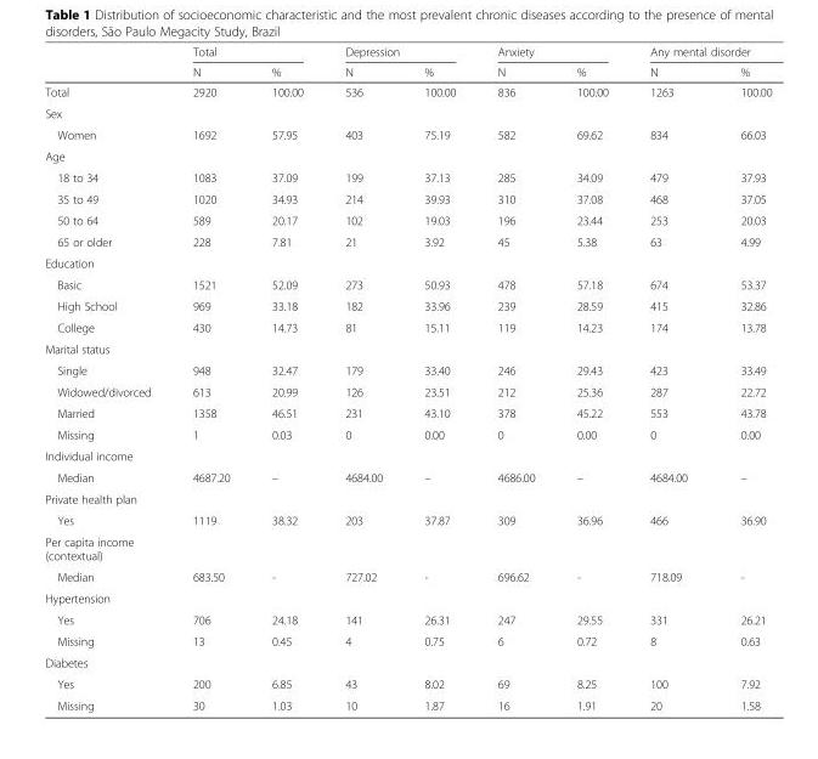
<table><thead><tr><td rowspan="2"></td><td colspan="2">Total</td><td colspan="2">Depression</td><td colspan="2">Anxiety</td><td colspan="2">Any mental disorder</td></tr><tr><td>N</td><td>%</td><td>N</td><td>%</td><td>N</td><td>%</td><td>N</td><td>%</td></tr></thead><tbody><tr><td>Total</td><td>2920</td><td>100.00</td><td>536</td><td>100.00</td><td>836</td><td>100.00</td><td>1263</td><td>100.00</td></tr><tr><td colspan="9">Sex</td></tr><tr><td>Women</td><td>1692</td><td>57.95</td><td>403</td><td>75.19</td><td>582</td><td>69.62</td><td>834</td><td>66.03</td></tr><tr><td colspan="9">Age</td></tr><tr><td>18 to 34</td><td>1083</td><td>37.09</td><td>199</td><td>37.13</td><td>285</td><td>34.09</td><td>479</td><td>37.93</td></tr><tr><td>35 to 49</td><td>1020</td><td>34.93</td><td>214</td><td>39.93</td><td>310</td><td>37.08</td><td>468</td><td>37.05</td></tr><tr><td>50 to 64</td><td>589</td><td>20.17</td><td>102</td><td>19.03</td><td>196</td><td>23.44</td><td>253</td><td>20.03</td></tr><tr><td>65 or older</td><td>228</td><td>7.81</td><td>21</td><td>3.92</td><td>45</td><td>5.38</td><td>63</td><td>4.99</td></tr><tr><td colspan="9">Education</td></tr><tr><td>Basic</td><td>1521</td><td>52.09</td><td>273</td><td>50.93</td><td>478</td><td>57.18</td><td>674</td><td>53.37</td></tr><tr><td>High School</td><td>969</td><td>33.18</td><td>182</td><td>33.96</td><td>239</td><td>28.59</td><td>415</td><td>32.86</td></tr><tr><td>College</td><td>430</td><td>14.73</td><td>81</td><td>15.11</td><td>119</td><td>14.23</td><td>174</td><td>13.78</td></tr><tr><td colspan="9">Marital status</td></tr><tr><td>Single</td><td>948</td><td>32.47</td><td>179</td><td>33.40</td><td>246</td><td>29.43</td><td>423</td><td>33.49</td></tr><tr><td>Widowed/divorced</td><td>613</td><td>20.99</td><td>126</td><td>23.51</td><td>212</td><td>25.36</td><td>287</td><td>22.72</td></tr><tr><td>Married</td><td>1358</td><td>46.51</td><td>231</td><td>43.10</td><td>378</td><td>45.22</td><td>553</td><td>43.78</td></tr><tr><td>Missing</td><td>1</td><td>0.03</td><td>0</td><td>0.00</td><td>0</td><td>0.00</td><td>0</td><td>0.00</td></tr><tr><td colspan="9">Individual income</td></tr><tr><td>Median</td><td>4687.20</td><td>–</td><td>4684.00</td><td>–</td><td>4686.00</td><td>–</td><td>4684.00</td><td>–</td></tr><tr><td colspan="9">Private health plan</td></tr><tr><td>Yes</td><td>1119</td><td>38.32</td><td>203</td><td>37.87</td><td>309</td><td>36.96</td><td>466</td><td>36.90</td></tr><tr><td colspan="9">Per capita income (contextual)</td></tr><tr><td>Median</td><td>683.50</td><td>-</td><td>727.02</td><td>-</td><td>696.62</td><td>-</td><td>718.09</td><td>-</td></tr><tr><td colspan="9">Hypertension</td></tr><tr><td>Yes</td><td>706</td><td>24.18</td><td>141</td><td>26.31</td><td>247</td><td>29.55</td><td>331</td><td>26.21</td></tr><tr><td>Missing</td><td>13</td><td>0.45</td><td>4</td><td>0.75</td><td>6</td><td>0.72</td><td>8</td><td>0.63</td></tr><tr><td colspan="9">Diabetes</td></tr><tr><td>Yes</td><td>200</td><td>6.85</td><td>43</td><td>8.02</td><td>69</td><td>8.25</td><td>100</td><td>7.92</td></tr><tr><td>Missing</td><td>30</td><td>1.03</td><td>10</td><td>1.87</td><td>16</td><td>1.91</td><td>20</td><td>1.58</td></tr></tbody></table>